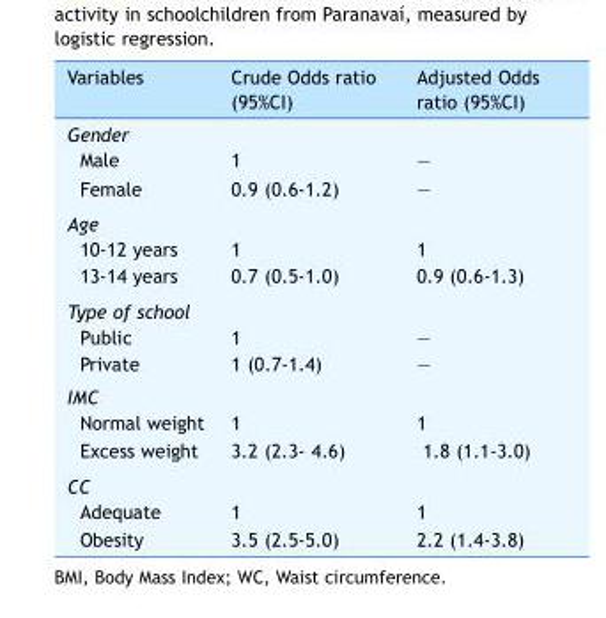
<table><thead><tr><td>Variables</td><td>Crude Odds ratio (95%CI)</td><td>Adjusted Odds ratio (95%CI)</td></tr></thead><tbody><tr><td colspan="3">Gender</td></tr><tr><td>Male</td><td>1</td><td>—</td></tr><tr><td>Female</td><td>0.9 (0.6-1.2)</td><td>—</td></tr><tr><td colspan="3">Age</td></tr><tr><td>10-12 years</td><td>1</td><td>1</td></tr><tr><td>13-14 years</td><td>0.7 (0.5-1.0)</td><td>0.9 (0.6-1.3)</td></tr><tr><td colspan="3">Type of school</td></tr><tr><td>Public</td><td>1</td><td>—</td></tr><tr><td>Private</td><td>1 (0.7-1.4)</td><td>—</td></tr><tr><td colspan="3">IMC</td></tr><tr><td>Normal weight</td><td>1</td><td>1</td></tr><tr><td>Excess weight</td><td>3.2 (2.3- 4.6)</td><td>1.8 (1.1-3.0)</td></tr><tr><td colspan="3">CC</td></tr><tr><td>Adequate</td><td>1</td><td>1</td></tr><tr><td>Obesity</td><td>3.5 (2.5-5.0)</td><td>2.2 (1.4-3.8)</td></tr></tbody></table>